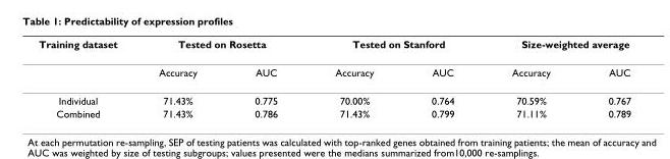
<table><thead><tr><td rowspan="2">Training dataset</td><td colspan="2">Tested on Rosetta</td><td colspan="2">Tested on Stanford</td><td colspan="2">Size-weighted average</td></tr><tr><td>Accuracy</td><td>AUC</td><td>Accuracy</td><td>AUC</td><td>Accuracy</td><td>AUC</td></tr></thead><tbody><tr><td>Individual</td><td>71.43%</td><td>0.775</td><td>70.00%</td><td>0.764</td><td>70.59%</td><td>0.767</td></tr><tr><td>Combined</td><td>71.43%</td><td>0.786</td><td>71.43%</td><td>0.799</td><td>71.11%</td><td>0.789</td></tr></tbody></table>